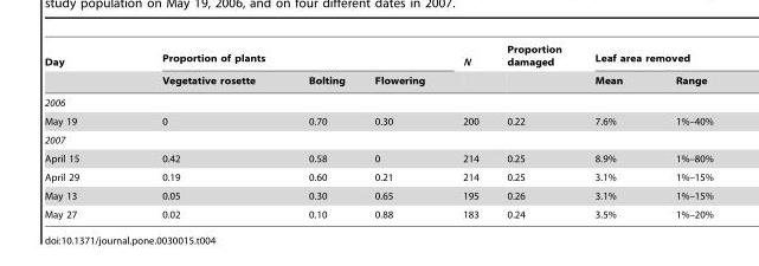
<table><thead><tr><td rowspan="2">Day</td><td colspan="3">Proportion of plants</td><td rowspan="2">N</td><td rowspan="2">Proportion damaged</td><td colspan="2">Leaf area removed</td></tr><tr><td>Vegetative rosette</td><td>Bolting</td><td>Flowering</td><td>Mean</td><td>Range</td></tr></thead><tbody><tr><td colspan="8">2006</td></tr><tr><td>May 19</td><td>0</td><td>0.70</td><td>0.30</td><td>200</td><td>0.22</td><td>7.6%</td><td>1%–40%</td></tr><tr><td colspan="8">2007</td></tr><tr><td>April 15</td><td>0.42</td><td>0.58</td><td>0</td><td>214</td><td>0.25</td><td>8.9%</td><td>1%–80%</td></tr><tr><td>April 29</td><td>0.19</td><td>0.60</td><td>0.21</td><td>214</td><td>0.25</td><td>3.1%</td><td>1%–15%</td></tr><tr><td>May 13</td><td>0.05</td><td>0.30</td><td>0.65</td><td>195</td><td>0.26</td><td>3.1%</td><td>1%–15%</td></tr><tr><td>May 27</td><td>0.02</td><td>0.10</td><td>0.88</td><td>183</td><td>0.24</td><td>3.5%</td><td>1%–20%</td></tr></tbody></table>